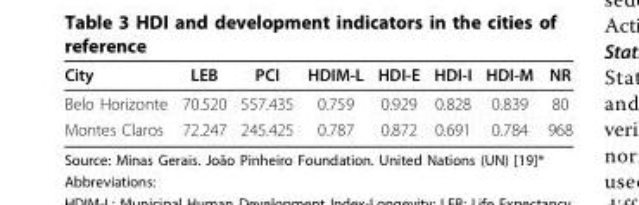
<table><thead><tr><td>City</td><td>LEB</td><td>PCI</td><td>HDIM-L</td><td>HDI-E</td><td>HDI-I</td><td>HDI-M</td><td>NR</td></tr></thead><tbody><tr><td>Belo Horizonte</td><td>70.520</td><td>557.435</td><td>0.759</td><td>0.929</td><td>0.828</td><td>0.839</td><td>80</td></tr><tr><td>Montes Claros</td><td>72.247</td><td>245.425</td><td>0.787</td><td>0.872</td><td>0.691</td><td>0.784</td><td>968</td></tr></tbody></table>